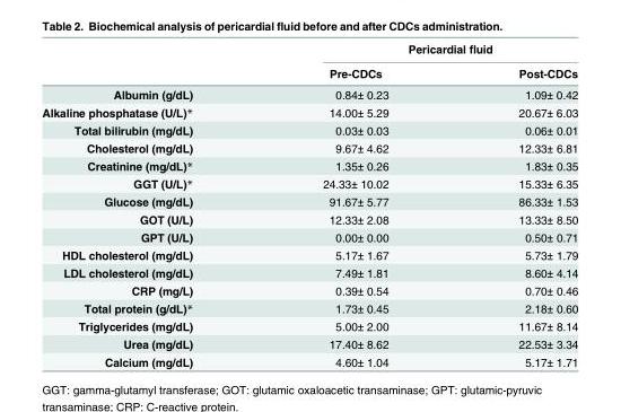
<table><thead><tr><td rowspan="2"></td><td colspan="2">Pericardial fluid</td></tr><tr><td>Pre-CDCs</td><td>Post-CDCs</td></tr></thead><tbody><tr><td>Albumin (g/dL)</td><td>0.84± 0.23</td><td>1.09± 0.42</td></tr><tr><td>Alkaline phosphatase (U/L)*</td><td>14.00± 5.29</td><td>20.67± 6.03</td></tr><tr><td>Total bilirubin (mg/dL)</td><td>0.03± 0.03</td><td>0.06± 0.01</td></tr><tr><td>Cholesterol (mg/dL)</td><td>9.67± 4.62</td><td>12.33± 6.81</td></tr><tr><td>Creatinine (mg/dL)*</td><td>1.35± 0.26</td><td>1.83± 0.35</td></tr><tr><td>GGT (U/L)*</td><td>24.33± 10.02</td><td>15.33± 6.35</td></tr><tr><td>Glucose (mg/dL)</td><td>91.67± 5.77</td><td>86.33± 1.53</td></tr><tr><td>GOT (U/L)</td><td>12.33± 2.08</td><td>13.33± 8.50</td></tr><tr><td>GPT (U/L)</td><td>0.00± 0.00</td><td>0.50± 0.71</td></tr><tr><td>HDL cholesterol (mg/dL)</td><td>5.17± 1.67</td><td>5.73± 1.79</td></tr><tr><td>LDL cholesterol (mg/dL)</td><td>7.49± 1.81</td><td>8.60± 4.14</td></tr><tr><td>CRP (mg/L)</td><td>0.39± 0.54</td><td>0.70± 0.46</td></tr><tr><td>Total protein (g/dL)*</td><td>1.73± 0.45</td><td>2.18± 0.60</td></tr><tr><td>Triglycerides (mg/dL)</td><td>5.00± 2.00</td><td>11.67± 8.14</td></tr><tr><td>Urea (mg/dL)</td><td>17.40± 8.62</td><td>22.53± 3.34</td></tr><tr><td>Calcium (mg/dL)</td><td>4.60± 1.04</td><td>5.17± 1.71</td></tr></tbody></table>